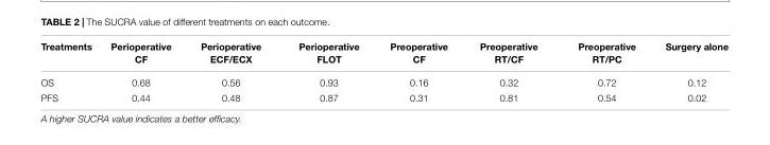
<table><thead><tr><td>Treatments</td><td>Perioperative CF</td><td>Perioperative ECF/ECX</td><td>Perioperative FLOT</td><td>Preoperative CF</td><td>Preoperative RT/CF</td><td>Preoperative RT/PC</td><td>Surgery alone</td></tr></thead><tbody><tr><td>OS</td><td>0.68</td><td>0.56</td><td>0.93</td><td>0.16</td><td>0.32</td><td>0.72</td><td>0.12</td></tr><tr><td>PFS</td><td>0.44</td><td>0.48</td><td>0.87</td><td>0.31</td><td>0.81</td><td>0.54</td><td>0.02</td></tr></tbody></table>